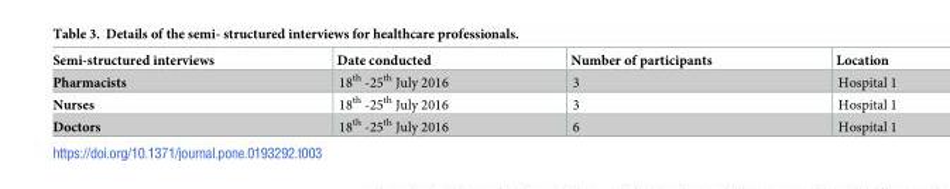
<table><thead><tr><td>Semi-structured interviews</td><td>Date conducted</td><td>Number of participants</td><td>Location</td></tr></thead><tbody><tr><td>Pharmacists</td><td>18<sup>th</sup> -25<sup>th</sup> July 2016</td><td>3</td><td>Hospital 1</td></tr><tr><td>Nurses</td><td>18<sup>th</sup> -25<sup>th</sup> July 2016</td><td>3</td><td>Hospital 1</td></tr><tr><td>Doctors</td><td>18<sup>th</sup> -25<sup>th</sup> July 2016</td><td>6</td><td>Hospital 1</td></tr></tbody></table>